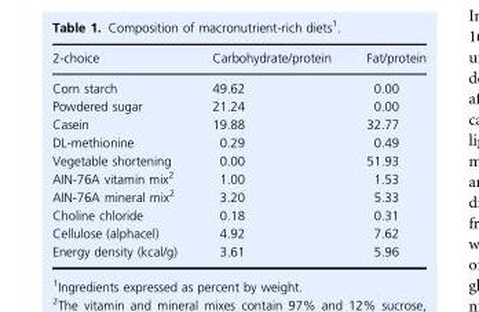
<table><thead><tr><td>2-choice</td><td>Carbohydrate/protein</td><td>Fat/protein</td></tr></thead><tbody><tr><td>Corn starch</td><td>49.62</td><td>0.00</td></tr><tr><td>Powdered sugar</td><td>21.24</td><td>0.00</td></tr><tr><td>Casein</td><td>19.88</td><td>32.77</td></tr><tr><td>DL-methionine</td><td>0.29</td><td>0.49</td></tr><tr><td>Vegetable shortening</td><td>0.00</td><td>51.93</td></tr><tr><td>AIN-76A vitamin mix<sup>2</sup></td><td>1.00</td><td>1.53</td></tr><tr><td>AIN-76A mineral mix<sup>2</sup></td><td>3.20</td><td>5.33</td></tr><tr><td>Choline chloride</td><td>0.18</td><td>0.31</td></tr><tr><td>Cellulose (alphacel)</td><td>4.92</td><td>7.62</td></tr><tr><td>Energy density (kcal/g)</td><td>3.61</td><td>5.96</td></tr></tbody></table>